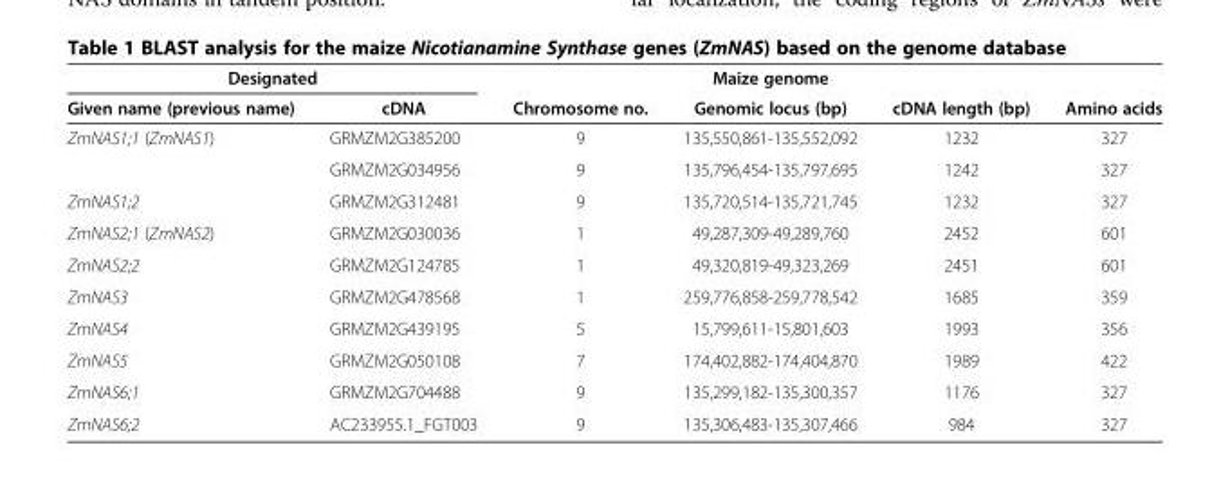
<table><thead><tr><td colspan="2">Designated</td><td rowspan="2">Chromosome no.</td><td rowspan="2">Maize genome Genomic locus (bp)</td><td rowspan="2">cDNA length (bp)</td><td rowspan="2">Amino acids</td></tr><tr><td>Given name (previous name)</td><td>cDNA</td></tr></thead><tbody><tr><td rowspan="2">ZmNAS1;1 (ZmNAS1)</td><td>GRMZM2G385200</td><td>9</td><td>135,550,861-135,552,092</td><td>1232</td><td>327</td></tr><tr><td>GRMZM2G034956</td><td>9</td><td>135,796,454-135,797,695</td><td>1242</td><td>327</td></tr><tr><td>ZmNAS1;2</td><td>GRMZM2G312481</td><td>9</td><td>135,720,514-135,721,745</td><td>1232</td><td>327</td></tr><tr><td>ZmNAS2;1 (ZmNAS2)</td><td>GRMZM2G030036</td><td>1</td><td>49,287,309-49,289,760</td><td>2452</td><td>601</td></tr><tr><td>ZmNAS2;2</td><td>GRMZM2G124785</td><td>1</td><td>49,320,819-49,323,269</td><td>2451</td><td>601</td></tr><tr><td>ZmNAS3</td><td>GRMZM2G478568</td><td>1</td><td>259,776,858-259,778,542</td><td>1685</td><td>359</td></tr><tr><td>ZmNAS4</td><td>GRMZM2G439195</td><td>5</td><td>15,799,611-15,801,603</td><td>1993</td><td>356</td></tr><tr><td>ZmNAS5</td><td>GRMZM2G050108</td><td>7</td><td>174,402,882-174,404,870</td><td>1989</td><td>422</td></tr><tr><td>ZmNAS6;1</td><td>GRMZM2G704488</td><td>9</td><td>135,299,182-135,300,357</td><td>1176</td><td>327</td></tr><tr><td>ZmNAS6;2</td><td>AC233955.1_FGT003</td><td>9</td><td>135,306,483-135,307,466</td><td>984</td><td>327</td></tr></tbody></table>